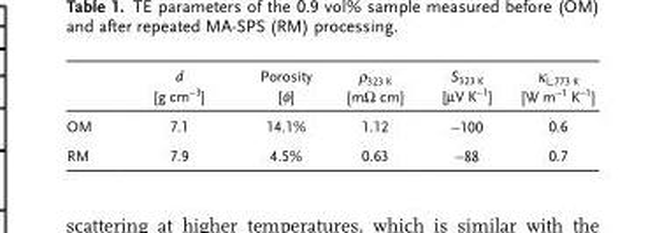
<table><thead><tr><td></td><td>d [g cm<sup>−3</sup>]</td><td>Porosity [φ]</td><td>ρ<sub>323 K</sub> [mΩ cm]</td><td>S<sub>323 K</sub> [µV K<sup>−1</sup>]</td><td>κ<sub>L,773 K</sub> [W m<sup>−1</sup> K<sup>−1</sup>]</td></tr></thead><tbody><tr><td>OM</td><td>7.1</td><td>14.1%</td><td>1.12</td><td>−100</td><td>0.6</td></tr><tr><td>RM</td><td>7.9</td><td>4.5%</td><td>0.63</td><td>−88</td><td>0.7</td></tr></tbody></table>